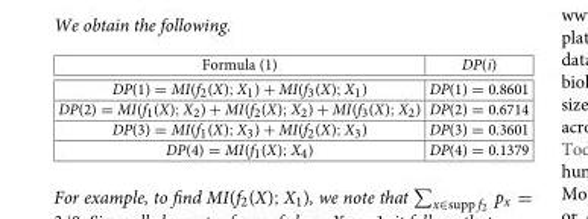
<table><tbody><tr><td>Formula (1)</td><td>DP(i)</td></tr><tr><td>DP(1) = MI(f<sub>2</sub>(X); X<sub>1</sub>) + MI(f<sub>3</sub>(X); X<sub>1</sub>)</td><td>DP(1) = 0.8601</td></tr><tr><td>DP(2) = MI(f<sub>1</sub>(X); X<sub>2</sub>) + MI(f<sub>2</sub>(X); X<sub>2</sub>) + MI(f<sub>3</sub>(X); X<sub>2</sub>)</td><td>DP(2) = 0.6714</td></tr><tr><td>DP(3) = MI(f<sub>1</sub>(X); X<sub>3</sub>) + MI(f<sub>2</sub>(X); X<sub>3</sub>)</td><td>DP(3) = 0.3601</td></tr><tr><td>DP(4) = MI(f<sub>1</sub>(X); X<sub>4</sub>)</td><td>DP(4) = 0.1379</td></tr></tbody></table>